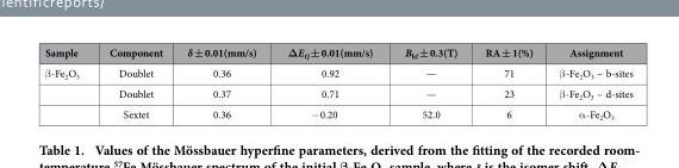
<table><thead><tr><td>Sample</td><td>Component</td><td>δ ± 0.01(mm/s)</td><td>DE<sub>Q</sub> ± 0.01(mm/s)</td><td>B<sub>hf</sub> ± 0.3(T)</td><td>RA ± 1(%)</td><td>Assignment</td></tr></thead><tbody><tr><td rowspan="3">β -Fe<sub>2</sub>O<sub>3</sub></td><td>Doublet</td><td>0.36</td><td>0.92</td><td>—</td><td>71</td><td>β -Fe<sub>2</sub>O<sub>3</sub> – b-sites</td></tr><tr><td>Doublet</td><td>0.37</td><td>0.71</td><td>—</td><td>23</td><td>β -Fe<sub>2</sub>O<sub>3</sub> – d-sites</td></tr><tr><td>Sextet</td><td>0.36</td><td>− 0.20</td><td>52.0</td><td>6</td><td>α -Fe<sub>2</sub>O<sub>3</sub></td></tr></tbody></table>